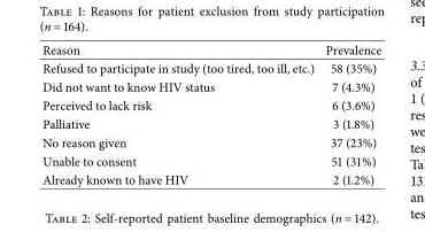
<table><thead><tr><td>Reason</td><td>Prevalence</td></tr></thead><tbody><tr><td>Refused to participate in study (too tired, too ill, etc.)</td><td>58 (35%)</td></tr><tr><td>Did not want to know HIV status</td><td>7 (4.3%)</td></tr><tr><td>Perceived to lack risk</td><td>6 (3.6%)</td></tr><tr><td>Palliative</td><td>3 (1.8%)</td></tr><tr><td>No reason given</td><td>37 (23%)</td></tr><tr><td>Unable to consent</td><td>51 (31%)</td></tr><tr><td>Already known to have HIV</td><td>2 (1.2%)</td></tr></tbody></table>